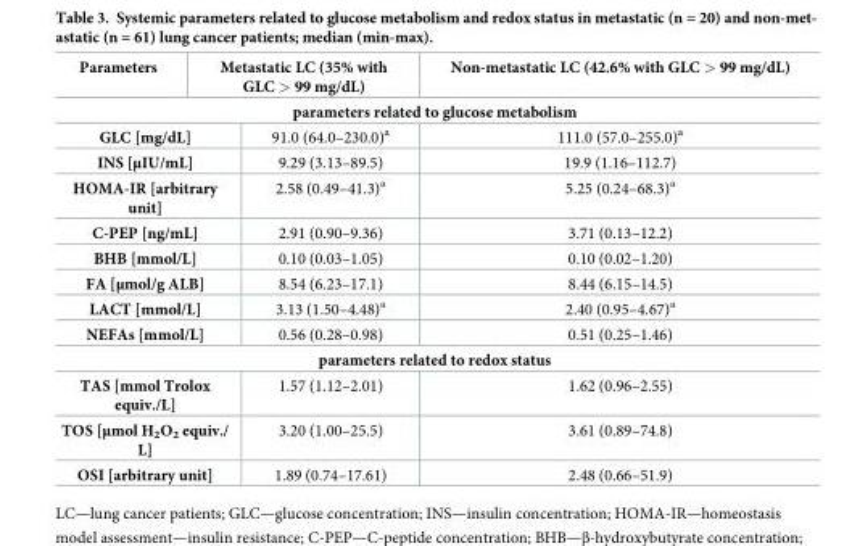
<table><thead><tr><td>Parameters</td><td colspan="2">Metastatic LC (35% with GLC &gt; 99 mg/dL)</td><td>Non-metastatic LC (42.6% with GLC &gt; 99 mg/dL)</td></tr></thead><tbody><tr><td colspan="4">parameters related to glucose metabolism</td></tr><tr><td colspan="2">GLC [mg/dL]</td><td>91.0 (64.0–230.0)<sup>a</sup></td><td>111.0 (57.0–255.0)<sup>a</sup></td></tr><tr><td colspan="2">INS [μIU/mL]</td><td>9.29 (3.13–89.5)</td><td>19.9 (1.16–112.7)</td></tr><tr><td colspan="2">HOMA-IR [arbitrary unit]</td><td>2.58 (0.49–41.3)<sup>a</sup></td><td>5.25 (0.24–68.3)<sup>a</sup></td></tr><tr><td colspan="2">C-PEP [ng/mL]</td><td>2.91 (0.90–9.36)</td><td>3.71 (0.13–12.2)</td></tr><tr><td colspan="2">BHB [mmol/L]</td><td>0.10 (0.03–1.05)</td><td>0.10 (0.02–1.20)</td></tr><tr><td colspan="2">FA [μmol/g ALB]</td><td>8.54 (6.23–17.1)</td><td>8.44 (6.15–14.5)</td></tr><tr><td colspan="2">LACT [mmol/L]</td><td>3.13 (1.50–4.48)<sup>a</sup></td><td>2.40 (0.95–4.67)<sup>a</sup></td></tr><tr><td colspan="2">NEFAs [mmol/L]</td><td>0.56 (0.28–0.98)</td><td>0.51 (0.25–1.46)</td></tr><tr><td colspan="4">parameters related to redox status</td></tr><tr><td colspan="2">TAS [mmol Trolox equiv./L]</td><td>1.57 (1.12–2.01)</td><td>1.62 (0.96–2.55)</td></tr><tr><td colspan="2">TOS [μmol H<sub>2</sub>O<sub>2</sub> equiv./ L]</td><td>3.20 (1.00–25.5)</td><td>3.61 (0.89–74.8)</td></tr><tr><td colspan="2">OSI [arbitrary unit]</td><td>1.89 (0.74–17.61)</td><td>2.48 (0.66–51.9)</td></tr></tbody></table>